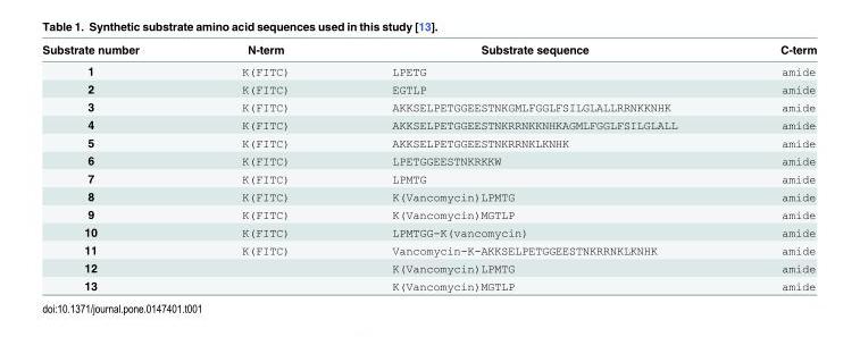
<table><thead><tr><td>Substrate number</td><td>N-term</td><td>Substrate sequence</td><td>C-term</td></tr></thead><tbody><tr><td>1</td><td>K(FITC)</td><td>LPETG</td><td>amide</td></tr><tr><td>2</td><td>K(FITC)</td><td>EGTLP</td><td>amide</td></tr><tr><td>3</td><td>K(FITC)</td><td>AKKSELPETGGEESTNKGMLFGGLFSILGLALLRRNKKNHK</td><td>amide</td></tr><tr><td>4</td><td>K(FITC)</td><td>AKKSELPETGGEESTNKRRNKKNHKAGMLFGGLFSILGLALL</td><td>amide</td></tr><tr><td>5</td><td>K(FITC)</td><td>AKKSELPETGGEESTNKRRNKLKNHK</td><td>amide</td></tr><tr><td>6</td><td>K(FITC)</td><td>LPETGGEESTNKRKKW</td><td>amide</td></tr><tr><td>7</td><td>K(FITC)</td><td>LPMTG</td><td>amide</td></tr><tr><td>8</td><td>K(FITC)</td><td>K(Vancomycin)LPMTG</td><td>amide</td></tr><tr><td>9</td><td>K(FITC)</td><td>K(Vancomycin)MGTLP</td><td>amide</td></tr><tr><td>10</td><td>K(FITC)</td><td>LPMTGG-K(vancomycin)</td><td>amide</td></tr><tr><td>11</td><td>K(FITC)</td><td>Vancomycin-K-AKKSELPETGGEESTNKRRNKLKNHK</td><td>amide</td></tr><tr><td>12</td><td></td><td>K(Vancomycin)LPMTG</td><td>amide</td></tr><tr><td>13</td><td></td><td>K(Vancomycin)MGTLP</td><td>amide</td></tr></tbody></table>